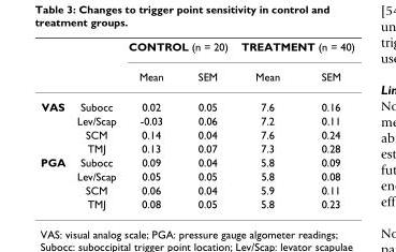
<table><thead><tr><td rowspan="2"></td><td rowspan="2"></td><td colspan="2">CONTROL (n = 20)</td><td colspan="2">TREATMENT (n = 40)</td></tr><tr><td>Mean</td><td>SEM</td><td>Mean</td><td>SEM</td></tr></thead><tbody><tr><td rowspan="4">VAS</td><td>Subocc</td><td>0.02</td><td>0.05</td><td>7.6</td><td>0.16</td></tr><tr><td>Lev/Scap</td><td>-0.03</td><td>0.06</td><td>7.2</td><td>0.11</td></tr><tr><td>SCM</td><td>0.14</td><td>0.04</td><td>7.6</td><td>0.24</td></tr><tr><td>TMJ</td><td>0.13</td><td>0.07</td><td>7.3</td><td>0.28</td></tr><tr><td rowspan="4">PGA</td><td>Subocc</td><td>0.09</td><td>0.04</td><td>5.8</td><td>0.09</td></tr><tr><td>Lev/Scap</td><td>0.05</td><td>0.05</td><td>5.8</td><td>0.08</td></tr><tr><td>SCM</td><td>0.06</td><td>0.04</td><td>5.9</td><td>0.11</td></tr><tr><td>TMJ</td><td>0.08</td><td>0.05</td><td>5.8</td><td>0.23</td></tr></tbody></table>